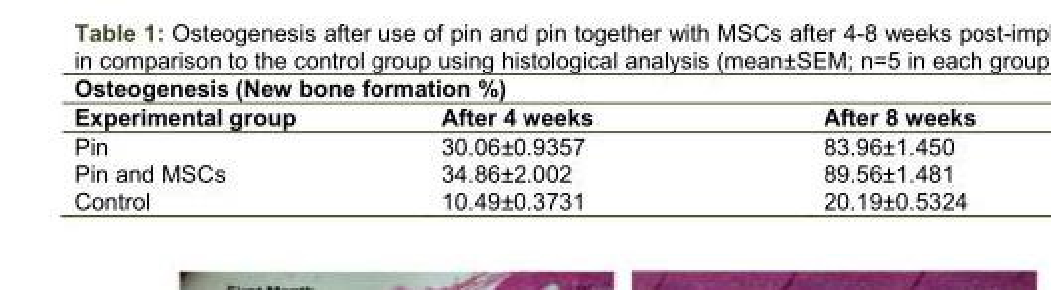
<table><thead><tr><td colspan="3">Osteogenesis (New bone formation %)</td></tr><tr><td>Experimental group</td><td>After 4 weeks</td><td>After 8 weeks</td></tr></thead><tbody><tr><td>Pin</td><td>30.06±0.9357</td><td>83.96±1.450</td></tr><tr><td>Pin and MSCs</td><td>34.86±2.002</td><td>89.56±1.481</td></tr><tr><td>Control</td><td>10.49±0.3731</td><td>20.19±0.5324</td></tr></tbody></table>